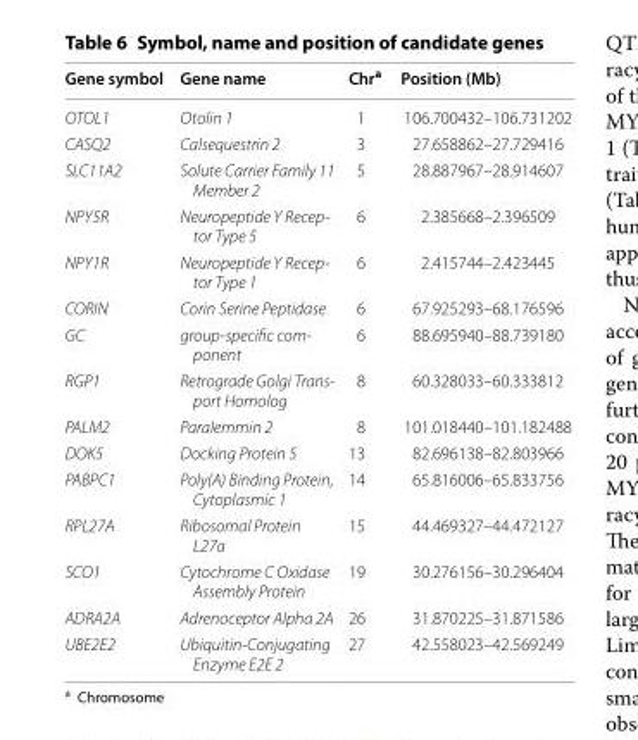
<table><thead><tr><td>Gene symbol</td><td>Gene name</td><td>Chr<sup>a</sup></td><td>Position (Mb)</td></tr></thead><tbody><tr><td>OTOL1</td><td>Otolin 1</td><td>1</td><td>106.700432–106.731202</td></tr><tr><td>CASQ2</td><td>Calsequestrin 2</td><td>3</td><td>27.658862–27.729416</td></tr><tr><td>SLC11A2</td><td>Solute Carrier Family 11 Member 2</td><td>5</td><td>28.887967–28.914607</td></tr><tr><td>NPY5R</td><td>Neuropeptide Y Recep- tor Type 5</td><td>6</td><td>2.385668–2.396509</td></tr><tr><td>NPY1R</td><td>Neuropeptide Y Recep- tor Type 1</td><td>6</td><td>2.415744–2.423445</td></tr><tr><td>CORIN</td><td>Corin Serine Peptidase</td><td>6</td><td>67.925293–68.176596</td></tr><tr><td>GC</td><td>group-specific com- ponent</td><td>6</td><td>88.695940–88.739180</td></tr><tr><td>RGP1</td><td>Retrograde Golgi Trans- port Homolog</td><td>8</td><td>60.328033–60.333812</td></tr><tr><td>PALM2</td><td>Paralemmin 2</td><td>8</td><td>101.018440–101.182488</td></tr><tr><td>DOK5</td><td>Docking Protein 5</td><td>13</td><td>82.696138–82.803966</td></tr><tr><td>PABPC1</td><td>Poly(A) Binding Protein, Cytoplasmic 1</td><td>14</td><td>65.816006–65.833756</td></tr><tr><td>RPL27A</td><td>Ribosomal Protein L27a</td><td>15</td><td>44.469327–44.472127</td></tr><tr><td>SCO1</td><td>Cytochrome C Oxidase Assembly Protein</td><td>19</td><td>30.276156–30.296404</td></tr><tr><td>ADRA2A</td><td>Adrenoceptor Alpha 2A</td><td>26</td><td>31.870225–31.871586</td></tr><tr><td>UBE2E2</td><td>Ubiquitin-Conjugating Enzyme E2E 2</td><td>27</td><td>42.558023–42.569249</td></tr></tbody></table>